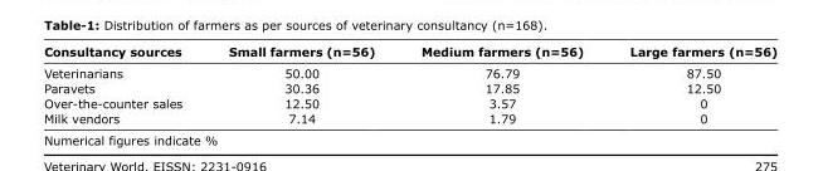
<table><thead><tr><td>Consultancy sources</td><td>Small farmers (n=56)</td><td>Medium farmers (n=56)</td><td>Large farmers (n=56)</td></tr></thead><tbody><tr><td>Veterinarians</td><td>50.00</td><td>76.79</td><td>87.50</td></tr><tr><td>Paravets</td><td>30.36</td><td>17.85</td><td>12.50</td></tr><tr><td>Over-the-counter sales</td><td>12.50</td><td>3.57</td><td>0</td></tr><tr><td>Milk vendors</td><td>7.14</td><td>1.79</td><td>0</td></tr></tbody></table>